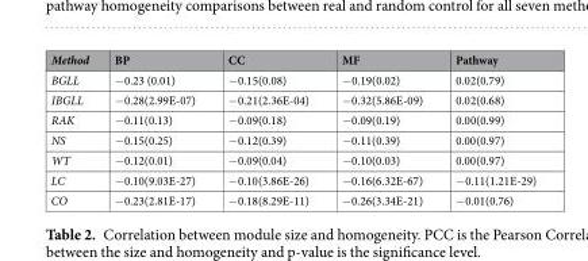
<table><thead><tr><td>Method</td><td>BP</td><td>CC</td><td>MF</td><td>Pathway</td></tr></thead><tbody><tr><td>BGLL</td><td>−0.23 (0.01)</td><td>−0.15(0.08)</td><td>−0.19(0.02)</td><td>0.02(0.79)</td></tr><tr><td>IBGLL</td><td>−0.28(2.99E-07)</td><td>−0.21(2.36E-04)</td><td>−0.32(5.86E-09)</td><td>0.02(0.68)</td></tr><tr><td>RAK</td><td>−0.11(0.13)</td><td>−0.09(0.18)</td><td>−0.09(0.19)</td><td>0.00(0.99)</td></tr><tr><td>NS</td><td>−0.15(0.25)</td><td>−0.12(0.39)</td><td>−0.11(0.39)</td><td>0.00(0.97)</td></tr><tr><td>WT</td><td>−0.12(0.01)</td><td>−0.09(0.04)</td><td>−0.10(0.03)</td><td>0.00(0.97)</td></tr><tr><td>LC</td><td>−0.10(9.03E-27)</td><td>−0.10(3.86E-26)</td><td>−0.16(6.32E-67)</td><td>−0.11(1.21E-29)</td></tr><tr><td>CO</td><td>−0.23(2.81E-17)</td><td>−0.18(8.29E-11)</td><td>−0.26(3.34E-21)</td><td>−0.01(0.76)</td></tr></tbody></table>